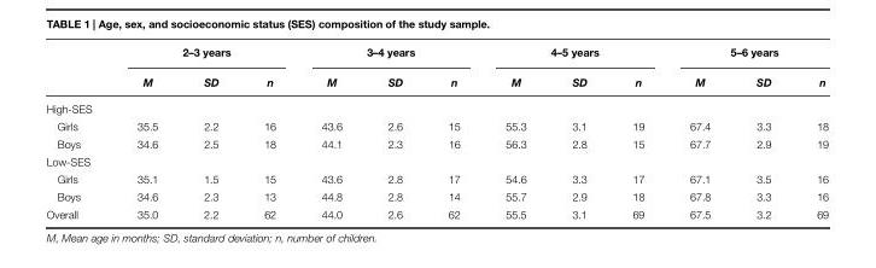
<table><thead><tr><td rowspan="2"></td><td colspan="3">2–3 years</td><td colspan="3">3–4 years</td><td colspan="3">4–5 years</td><td colspan="3">5–6 years</td></tr><tr><td>M</td><td>SD</td><td>n</td><td>M</td><td>SD</td><td>n</td><td>M</td><td>SD</td><td>n</td><td>M</td><td>SD</td><td>n</td></tr></thead><tbody><tr><td colspan="13">High-SES</td></tr><tr><td>Girls</td><td>35.5</td><td>2.2</td><td>16</td><td>43.6</td><td>2.6</td><td>15</td><td>55.3</td><td>3.1</td><td>19</td><td>67.4</td><td>3.3</td><td>18</td></tr><tr><td>Boys</td><td>34.6</td><td>2.5</td><td>18</td><td>44.1</td><td>2.3</td><td>16</td><td>56.3</td><td>2.8</td><td>15</td><td>67.7</td><td>2.9</td><td>19</td></tr><tr><td colspan="13">Low-SES</td></tr><tr><td>Girls</td><td>35.1</td><td>1.5</td><td>15</td><td>43.6</td><td>2.8</td><td>17</td><td>54.6</td><td>3.3</td><td>17</td><td>67.1</td><td>3.5</td><td>16</td></tr><tr><td>Boys</td><td>34.6</td><td>2.3</td><td>13</td><td>44.8</td><td>2.8</td><td>14</td><td>55.7</td><td>2.9</td><td>18</td><td>67.8</td><td>3.3</td><td>16</td></tr><tr><td>Overall</td><td>35.0</td><td>2.2</td><td>62</td><td>44.0</td><td>2.6</td><td>62</td><td>55.5</td><td>3.1</td><td>69</td><td>67.5</td><td>3.2</td><td>69</td></tr></tbody></table>